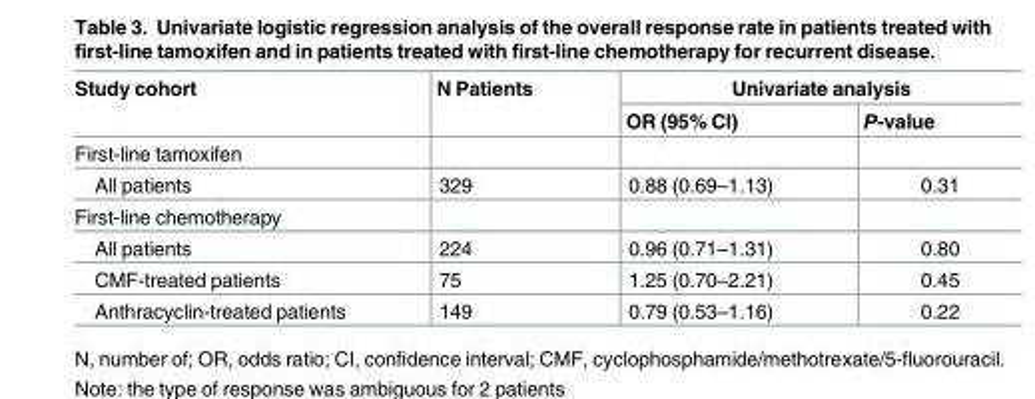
<table><thead><tr><td rowspan="2">Study cohort</td><td rowspan="2">N Patients</td><td colspan="2">Univariate analysis</td></tr><tr><td>OR (95% CI)</td><td>P-value</td></tr></thead><tbody><tr><td colspan="4">First-line tamoxifen</td></tr><tr><td>All patients</td><td>329</td><td>0.88 (0.69–1.13)</td><td>0.31</td></tr><tr><td colspan="4">First-line chemotherapy</td></tr><tr><td>All patients</td><td>224</td><td>0.96 (0.71–1.31)</td><td>0.80</td></tr><tr><td>CMF-treated patients</td><td>75</td><td>1.25 (0.70–2.21)</td><td>0.45</td></tr><tr><td>Anthracyclin-treated patients</td><td>149</td><td>0.79 (0.53–1.16)</td><td>0.22</td></tr></tbody></table>